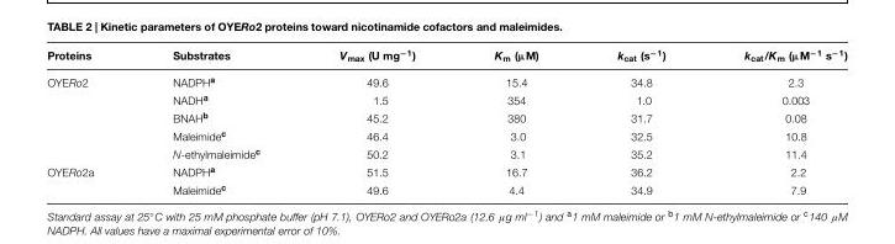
<table><thead><tr><td>Proteins</td><td>Substrates</td><td>V<sub>max</sub> (U mg<sup>−1</sup>)</td><td>K<sub>m</sub> (μM)</td><td>k<sub>cat</sub> (s<sup>−1</sup>)</td><td>k<sub>cat</sub>/K<sub>m</sub> (μM<sup>−1</sup> s<sup>−1</sup>)</td></tr></thead><tbody><tr><td rowspan="5">OYERo2</td><td>NADPH<sup>a</sup></td><td>49.6</td><td>15.4</td><td>34.8</td><td>2.3</td></tr><tr><td>NADH<sup>a</sup></td><td>1.5</td><td>354</td><td>1.0</td><td>0.003</td></tr><tr><td>BNAH<sup>b</sup></td><td>45.2</td><td>380</td><td>31.7</td><td>0.08</td></tr><tr><td>Maleimide<sup>c</sup></td><td>46.4</td><td>3.0</td><td>32.5</td><td>10.8</td></tr><tr><td>N-ethylmaleimide<sup>c</sup></td><td>50.2</td><td>3.1</td><td>35.2</td><td>11.4</td></tr><tr><td rowspan="2">OYERo2a</td><td>NADPH<sup>a</sup></td><td>51.5</td><td>16.7</td><td>36.2</td><td>2.2</td></tr><tr><td>Maleimide<sup>c</sup></td><td>49.6</td><td>4.4</td><td>34.9</td><td>7.9</td></tr></tbody></table>